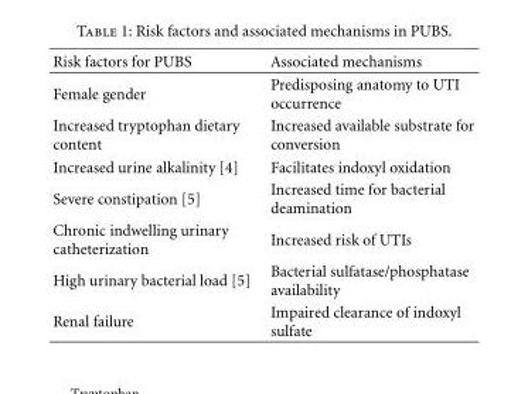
<table><thead><tr><td>Risk factors for PUBS</td><td>Associated mechanisms</td></tr></thead><tbody><tr><td>Female gender</td><td>Predisposing anatomy to UTI occurrence</td></tr><tr><td>Increased tryptophan dietary content</td><td>Increased available substrate for conversion</td></tr><tr><td>Increased urine alkalinity [4]</td><td>Facilitates indoxyl oxidation</td></tr><tr><td>Severe constipation [5]</td><td>Increased time for bacterial deamination</td></tr><tr><td>Chronic indwelling urinary catheterization</td><td>Increased risk of UTIs</td></tr><tr><td>High urinary bacterial load [5]</td><td>Bacterial sulfatase/phosphatase availability</td></tr><tr><td>Renal failure</td><td>Impaired clearance of indoxyl sulfate</td></tr></tbody></table>